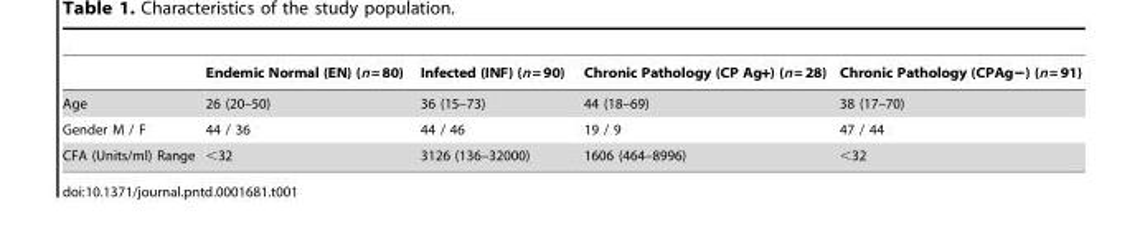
<table><thead><tr><td></td><td>Endemic Normal (EN) (n = 80)</td><td>Infected (INF) (n =90)</td><td>Chronic Pathology (CP Ag+) (n = 28)</td><td>Chronic Pathology (CPAg−) (n = 91)</td></tr></thead><tbody><tr><td>Age</td><td>26 (20–50)</td><td>36 (15–73)</td><td>44 (18–69)</td><td>38 (17–70)</td></tr><tr><td>Gender M / F</td><td>44 / 36</td><td>44 / 46</td><td>19 / 9</td><td>47 / 44</td></tr><tr><td>CFA (Units/ml) Range</td><td>&lt;32</td><td>3126 (136–32000)</td><td>1606 (464–8996)</td><td>&lt;32</td></tr></tbody></table>